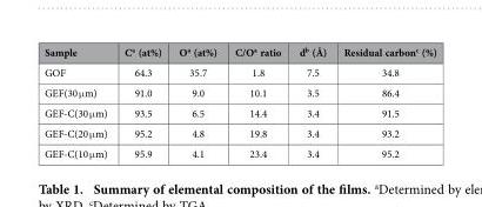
<table><thead><tr><td>Sample</td><td>C<sup>a</sup> (at%)</td><td>O<sup>a</sup> (at%)</td><td>C/O<sup>a</sup> ratio</td><td>d<sup>b</sup> (Å)</td><td>Residual carbon<sup>c</sup> (%)</td></tr></thead><tbody><tr><td>GOF</td><td>64.3</td><td>35.7</td><td>1.8</td><td>7.5</td><td>34.8</td></tr><tr><td>GEF(30 μ m)</td><td>91.0</td><td>9.0</td><td>10.1</td><td>3.5</td><td>86.4</td></tr><tr><td>GEF-C(30 μ m)</td><td>93.5</td><td>6.5</td><td>14.4</td><td>3.4</td><td>91.5</td></tr><tr><td>GEF-C(20 μ m)</td><td>95.2</td><td>4.8</td><td>19.8</td><td>3.4</td><td>93.2</td></tr><tr><td>GEF-C(10 μ m)</td><td>95.9</td><td>4.1</td><td>23.4</td><td>3.4</td><td>95.2</td></tr></tbody></table>